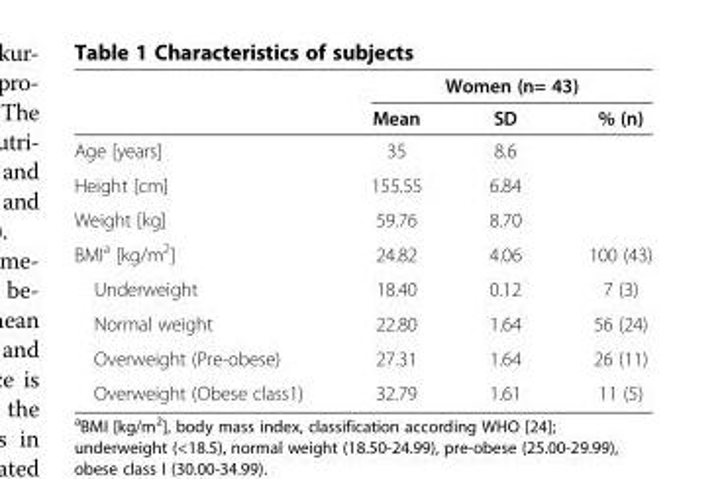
<table><thead><tr><td rowspan="2"></td><td colspan="3">Women (n= 43)</td></tr><tr><td>Mean</td><td>SD</td><td>% (n)</td></tr></thead><tbody><tr><td>Age [years]</td><td>35</td><td>8.6</td><td></td></tr><tr><td>Height [cm]</td><td>155.55</td><td>6.84</td><td></td></tr><tr><td>Weight [kg]</td><td>59.76</td><td>8.70</td><td></td></tr><tr><td>BMI<sup>a</sup> [kg/m<sup>2</sup>]</td><td>24.82</td><td>4.06</td><td>100 (43)</td></tr><tr><td>Underweight</td><td>18.40</td><td>0.12</td><td>7 (3)</td></tr><tr><td>Normal weight</td><td>22.80</td><td>1.64</td><td>56 (24)</td></tr><tr><td>Overweight (Pre-obese)</td><td>27.31</td><td>1.64</td><td>26 (11)</td></tr><tr><td>Overweight (Obese class1)</td><td>32.79</td><td>1.61</td><td>11 (5)</td></tr></tbody></table>